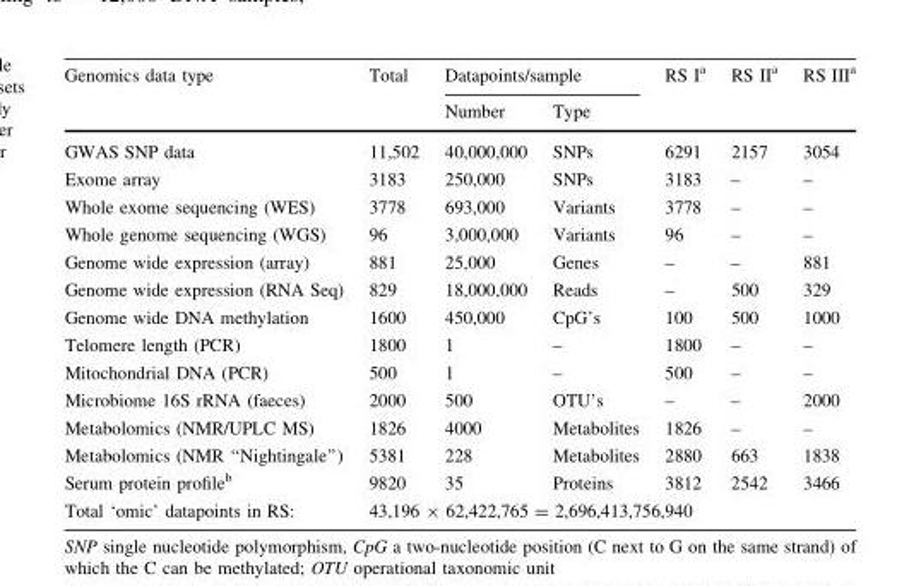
<table><thead><tr><td rowspan="2">Genomics data type</td><td rowspan="2">Total</td><td colspan="2">Datapoints/sample</td><td rowspan="2">RS I<sup>a</sup></td><td rowspan="2">RS II<sup>a</sup></td><td rowspan="2">RS III<sup>a</sup></td></tr><tr><td>Number</td><td>Type</td></tr></thead><tbody><tr><td>GWAS SNP data</td><td>11,502</td><td>40,000,000</td><td>SNPs</td><td>6291</td><td>2157</td><td>3054</td></tr><tr><td>Exome array</td><td>3183</td><td>250,000</td><td>SNPs</td><td>3183</td><td>–</td><td>–</td></tr><tr><td>Whole exome sequencing (WES)</td><td>3778</td><td>693,000</td><td>Variants</td><td>3778</td><td>–</td><td>–</td></tr><tr><td>Whole genome sequencing (WGS)</td><td>96</td><td>3,000,000</td><td>Variants</td><td>96</td><td>–</td><td>–</td></tr><tr><td>Genome wide expression (array)</td><td>881</td><td>25,000</td><td>Genes</td><td>–</td><td>–</td><td>881</td></tr><tr><td>Genome wide expression (RNA Seq)</td><td>829</td><td>18,000,000</td><td>Reads</td><td>–</td><td>500</td><td>329</td></tr><tr><td>Genome wide DNA methylation</td><td>1600</td><td>450,000</td><td>CpG’s</td><td>100</td><td>500</td><td>1000</td></tr><tr><td>Telomere length (PCR)</td><td>1800</td><td>1</td><td>–</td><td>1800</td><td>–</td><td>–</td></tr><tr><td>Mitochondrial DNA (PCR)</td><td>500</td><td>1</td><td>–</td><td>500</td><td>–</td><td>–</td></tr><tr><td>Microbiome 16S rRNA (faeces)</td><td>2000</td><td>500</td><td>OTU’s</td><td>–</td><td>–</td><td>2000</td></tr><tr><td>Metabolomics (NMR/UPLC MS)</td><td>1826</td><td>4000</td><td>Metabolites</td><td>1826</td><td>–</td><td>–</td></tr><tr><td>Metabolomics (NMR ‘‘Nightingale’’)</td><td>5381</td><td>228</td><td>Metabolites</td><td>2880</td><td>663</td><td>1838</td></tr><tr><td>Serum protein profile<sup>b</sup></td><td>9820</td><td>35</td><td>Proteins</td><td>3812</td><td>2542</td><td>3466</td></tr><tr><td>Total ‘omic’ datapoints in RS:</td><td colspan="6">43,196 × 62,422,765 = 2,696,413,756,940</td></tr></tbody></table>